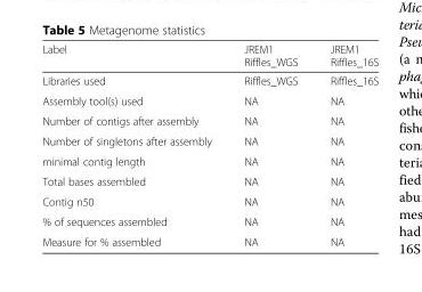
<table><thead><tr><td>Label</td><td>JREM1 Riffles_WGS</td><td>JREM1 Riffles_16S</td></tr></thead><tbody><tr><td>Libraries used</td><td>Riffles_WGS</td><td>Riffles_16S</td></tr><tr><td>Assembly tool(s) used</td><td>NA</td><td>NA</td></tr><tr><td>Number of contigs after assembly</td><td>NA</td><td>NA</td></tr><tr><td>Number of singletons after assembly</td><td>NA</td><td>NA</td></tr><tr><td>minimal contig length</td><td>NA</td><td>NA</td></tr><tr><td>Total bases assembled</td><td>NA</td><td>NA</td></tr><tr><td>Contig n50</td><td>NA</td><td>NA</td></tr><tr><td>% of sequences assembled</td><td>NA</td><td>NA</td></tr><tr><td>Measure for % assembled</td><td>NA</td><td>NA</td></tr></tbody></table>